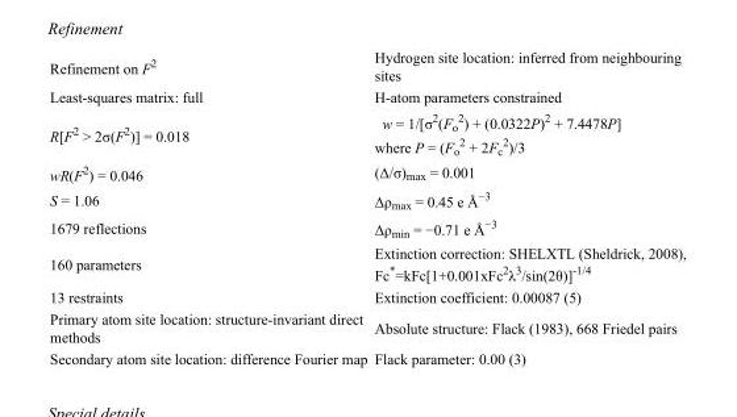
<table><tbody><tr><td>Refinement on F<sup>2</sup></td><td>Hydrogen site location: inferred from neighbouring sites</td></tr><tr><td>Least-squares matrix: full</td><td>H-atom parameters constrained</td></tr><tr><td>R[F<sup>2</sup> &gt; 2σ(F<sup>2</sup>)] = 0.018</td><td>w = 1/[σ<sup>2</sup>(F<sub>o</sub> <sup>2</sup>) + (0.0322P)<sup>2</sup> + 7.4478P] where P = (F<sub>o</sub> <sup>2</sup> + 2F<sub>c</sub> <sup>2</sup>)/3</td></tr><tr><td>wR(F<sup>2</sup>) = 0.046</td><td>(Δ/σ)<sub>max</sub> = 0.001</td></tr><tr><td>S = 1.06</td><td>Δρ<sub>max</sub> = 0.45 e Å<sup>−3</sup></td></tr><tr><td>1679 reflections</td><td>Δρ<sub>min</sub> = −0.71 e Å<sup>−3</sup></td></tr><tr><td>160 parameters</td><td>Extinction correction: SHELXTL (Sheldrick, 2008), Fc*=kFc[1+0.001xFc<sup>2</sup>λ<sup>3</sup>/sin(2θ)]<sup>-1/4</sup></td></tr><tr><td>13 restraints</td><td>Extinction coefficient: 0.00087 (5)</td></tr><tr><td>Primary atom site location: structure-invariant direct methods</td><td>Absolute structure: Flack (1983), 668 Friedel pairs</td></tr><tr><td>Secondary atom site location: difference Fourier map</td><td>Flack parameter: 0.00 (3)</td></tr></tbody></table>